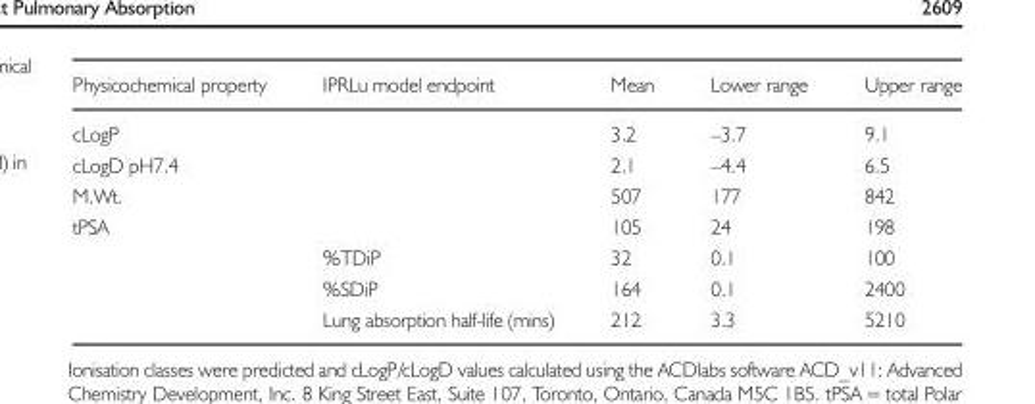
<table><thead><tr><td>Physicochemical property</td><td>IPRLu model endpoint</td><td>Mean</td><td>Lower range</td><td>Upper range</td></tr></thead><tbody><tr><td>cLogP</td><td></td><td>3.2</td><td>–3.7</td><td>9.1</td></tr><tr><td>cLogD pH7.4</td><td></td><td>2.1</td><td>–4.4</td><td>6.5</td></tr><tr><td>M.Wt.</td><td></td><td>507</td><td>177</td><td>842</td></tr><tr><td rowspan="4">tPSA</td><td></td><td>105</td><td>24</td><td>198</td></tr><tr><td>%TDiP</td><td>32</td><td>0.1</td><td>100</td></tr><tr><td>%SDiP</td><td>164</td><td>0.1</td><td>2400</td></tr><tr><td>Lung absorption half-life (mins)</td><td>212</td><td>3.3</td><td>5210</td></tr></tbody></table>